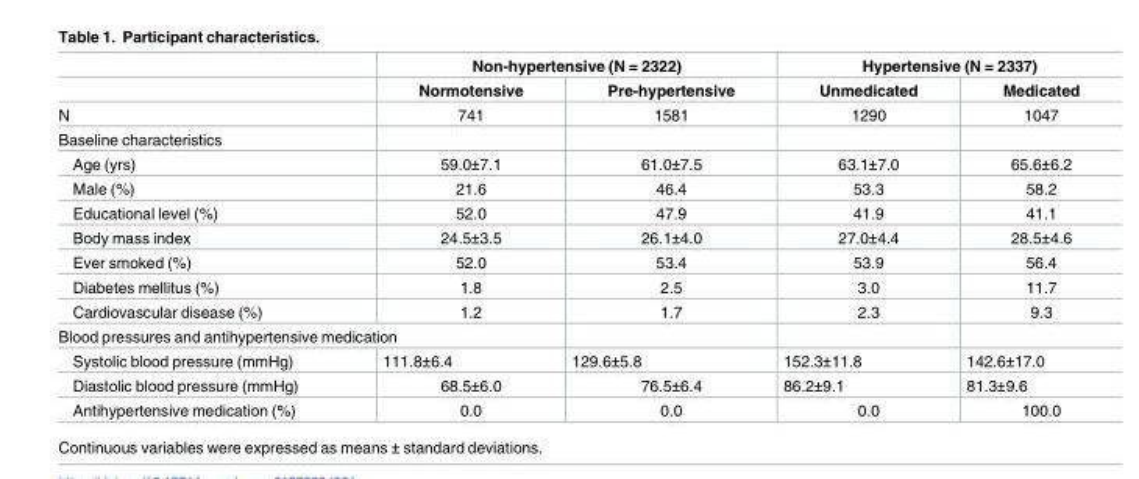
<table><thead><tr><td rowspan="2"></td><td colspan="2">Non-hypertensive (N = 2322)</td><td colspan="2">Hypertensive (N = 2337)</td></tr><tr><td>Normotensive</td><td>Pre-hypertensive</td><td>Unmedicated</td><td>Medicated</td></tr></thead><tbody><tr><td>N</td><td>741</td><td>1581</td><td>1290</td><td>1047</td></tr><tr><td colspan="5">Baseline characteristics</td></tr><tr><td>Age (yrs)</td><td>59.0±7.1</td><td>61.0±7.5</td><td>63.1±7.0</td><td>65.6±6.2</td></tr><tr><td>Male (%)</td><td>21.6</td><td>46.4</td><td>53.3</td><td>58.2</td></tr><tr><td>Educational level (%)</td><td>52.0</td><td>47.9</td><td>41.9</td><td>41.1</td></tr><tr><td>Body mass index</td><td>24.5±3.5</td><td>26.1±4.0</td><td>27.0±4.4</td><td>28.5±4.6</td></tr><tr><td>Ever smoked (%)</td><td>52.0</td><td>53.4</td><td>53.9</td><td>56.4</td></tr><tr><td>Diabetes mellitus (%)</td><td>1.8</td><td>2.5</td><td>3.0</td><td>11.7</td></tr><tr><td>Cardiovascular disease (%)</td><td>1.2</td><td>1.7</td><td>2.3</td><td>9.3</td></tr><tr><td colspan="5">Blood pressures and antihypertensive medication</td></tr><tr><td>Systolic blood pressure (mmHg)</td><td>111.8±6.4</td><td>129.6±5.8</td><td>152.3±11.8</td><td>142.6±17.0</td></tr><tr><td>Diastolic blood pressure (mmHg)</td><td>68.5±6.0</td><td>76.5±6.4</td><td>86.2±9.1</td><td>81.3±9.6</td></tr><tr><td>Antihypertensive medication (%)</td><td>0.0</td><td>0.0</td><td>0.0</td><td>100.0</td></tr></tbody></table>